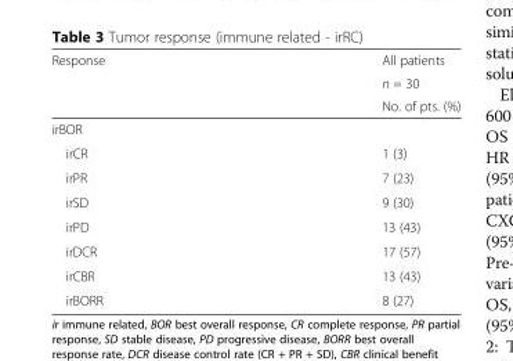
<table><thead><tr><td rowspan="3">Response</td><td rowspan="3">All patients n = 30 No. of pts. (%)</td></tr><tr></tr><tr></tr></thead><tbody><tr><td colspan="2">irBOR</td></tr><tr><td>irCR</td><td>1 (3)</td></tr><tr><td>irPR</td><td>7 (23)</td></tr><tr><td>irSD</td><td>9 (30)</td></tr><tr><td>irPD</td><td>13 (43)</td></tr><tr><td>irDCR</td><td>17 (57)</td></tr><tr><td>irCBR</td><td>13 (43)</td></tr><tr><td>irBORR</td><td>8 (27)</td></tr></tbody></table>